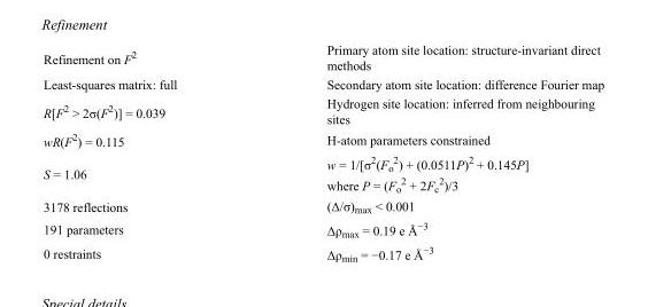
<table><tbody><tr><td>Refinement on F<sup>2</sup></td><td>Primary atom site location: structure-invariant direct methods</td></tr><tr><td>Least-squares matrix: full</td><td>Secondary atom site location: difference Fourier map</td></tr><tr><td>R[F<sup>2</sup> &gt; 2σ(F<sup>2</sup>)] = 0.039</td><td>Hydrogen site location: inferred from neighbouring sites</td></tr><tr><td>wR(F<sup>2</sup>) = 0.115</td><td>H-atom parameters constrained</td></tr><tr><td>S = 1.06</td><td>w = 1/[σ<sup>2</sup>(F<sub>o</sub> <sup>2</sup>) + (0.0511P)<sup>2</sup> + 0.145P] where P = (F<sub>o</sub> <sup>2</sup> + 2F<sub>c</sub> <sup>2</sup>)/3</td></tr><tr><td>3178 reflections</td><td>(Δ/σ)<sub>max</sub> &lt; 0.001</td></tr><tr><td>191 parameters</td><td>Δρ<sub>max</sub> = 0.19 e Å<sup>−3</sup></td></tr><tr><td>0 restraints</td><td>Δρ<sub>min</sub> = −0.17 e Å<sup>−3</sup></td></tr></tbody></table>